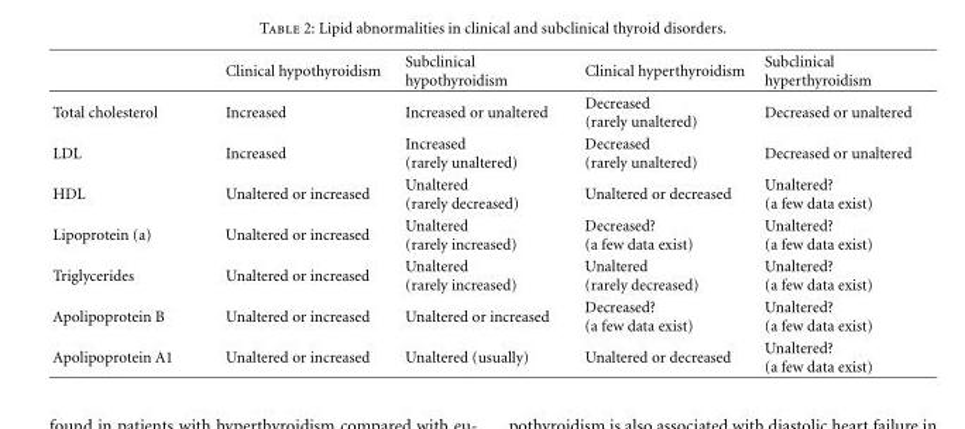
<table><thead><tr><td></td><td>Clinical hypothyroidism</td><td>Subclinical hypothyroidism</td><td>Clinical hyperthyroidism</td><td>Subclinical hyperthyroidism</td></tr></thead><tbody><tr><td>Total cholesterol</td><td>Increased</td><td>Increased or unaltered</td><td>Decreased (rarely unaltered)</td><td>Decreased or unaltered</td></tr><tr><td>LDL</td><td>Increased</td><td>Increased (rarely unaltered)</td><td>Decreased (rarely unaltered)</td><td>Decreased or unaltered</td></tr><tr><td>HDL</td><td>Unaltered or increased</td><td>Unaltered (rarely decreased)</td><td>Unaltered or decreased</td><td>Unaltered? (a few data exist)</td></tr><tr><td>Lipoprotein (a)</td><td>Unaltered or increased</td><td>Unaltered (rarely increased)</td><td>Decreased? (a few data exist)</td><td>Unaltered? (a few data exist)</td></tr><tr><td>Triglycerides</td><td>Unaltered or increased</td><td>Unaltered (rarely increased)</td><td>Unaltered (rarely decreased)</td><td>Unaltered? (a few data exist)</td></tr><tr><td>Apolipoprotein B</td><td>Unaltered or increased</td><td>Unaltered or increased</td><td>Decreased? (a few data exist)</td><td>Unaltered? (a few data exist)</td></tr><tr><td>Apolipoprotein A1</td><td>Unaltered or increased</td><td>Unaltered (usually)</td><td>Unaltered or decreased</td><td>Unaltered? (a few data exist)</td></tr></tbody></table>